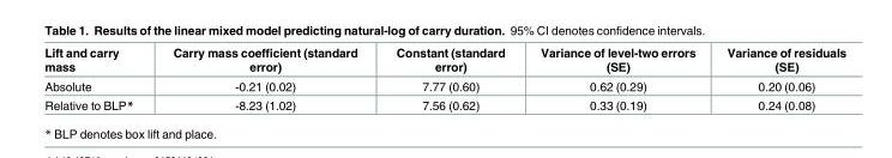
<table><thead><tr><td>Lift and carry mass</td><td>Carry mass coefficient (standard error)</td><td>Constant (standard error)</td><td>Variance of level-two errors (SE)</td><td>Variance of residuals (SE)</td></tr></thead><tbody><tr><td>Absolute</td><td>-0.21 (0.02)</td><td>7.77 (0.60)</td><td>0.62 (0.29)</td><td>0.20 (0.06)</td></tr><tr><td>Relative to BLP*</td><td>-8.23 (1.02)</td><td>7.56 (0.62)</td><td>0.33 (0.19)</td><td>0.24 (0.08)</td></tr></tbody></table>